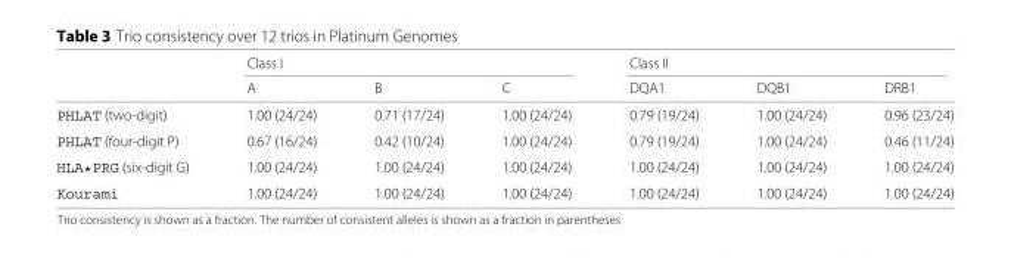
<table><thead><tr><td rowspan="2"></td><td colspan="3">Class I</td><td colspan="3">Class II</td></tr><tr><td>A</td><td>B</td><td>C</td><td>DQA1</td><td>DQB1</td><td>DRB1</td></tr></thead><tbody><tr><td>PHLAT (two-digit)</td><td>1.00 (24/24)</td><td>0.71 (17/24)</td><td>1.00 (24/24)</td><td>0.79 (19/24)</td><td>1.00 (24/24)</td><td>0.96 (23/24)</td></tr><tr><td>PHLAT (four-digit P)</td><td>0.67 (16/24)</td><td>0.42 (10/24)</td><td>1.00 (24/24)</td><td>0.79 (19/24)</td><td>1.00 (24/24)</td><td>0.46 (11/24)</td></tr><tr><td>HLA*PRG (six-digit G)</td><td>1.00 (24/24)</td><td>1.00 (24/24)</td><td>1.00 (24/24)</td><td>1.00 (24/24)</td><td>1.00 (24/24)</td><td>1.00 (24/24)</td></tr><tr><td>Kourami</td><td>1.00 (24/24)</td><td>1.00 (24/24)</td><td>1.00 (24/24)</td><td>1.00 (24/24)</td><td>1.00 (24/24)</td><td>1.00 (24/24)</td></tr></tbody></table>